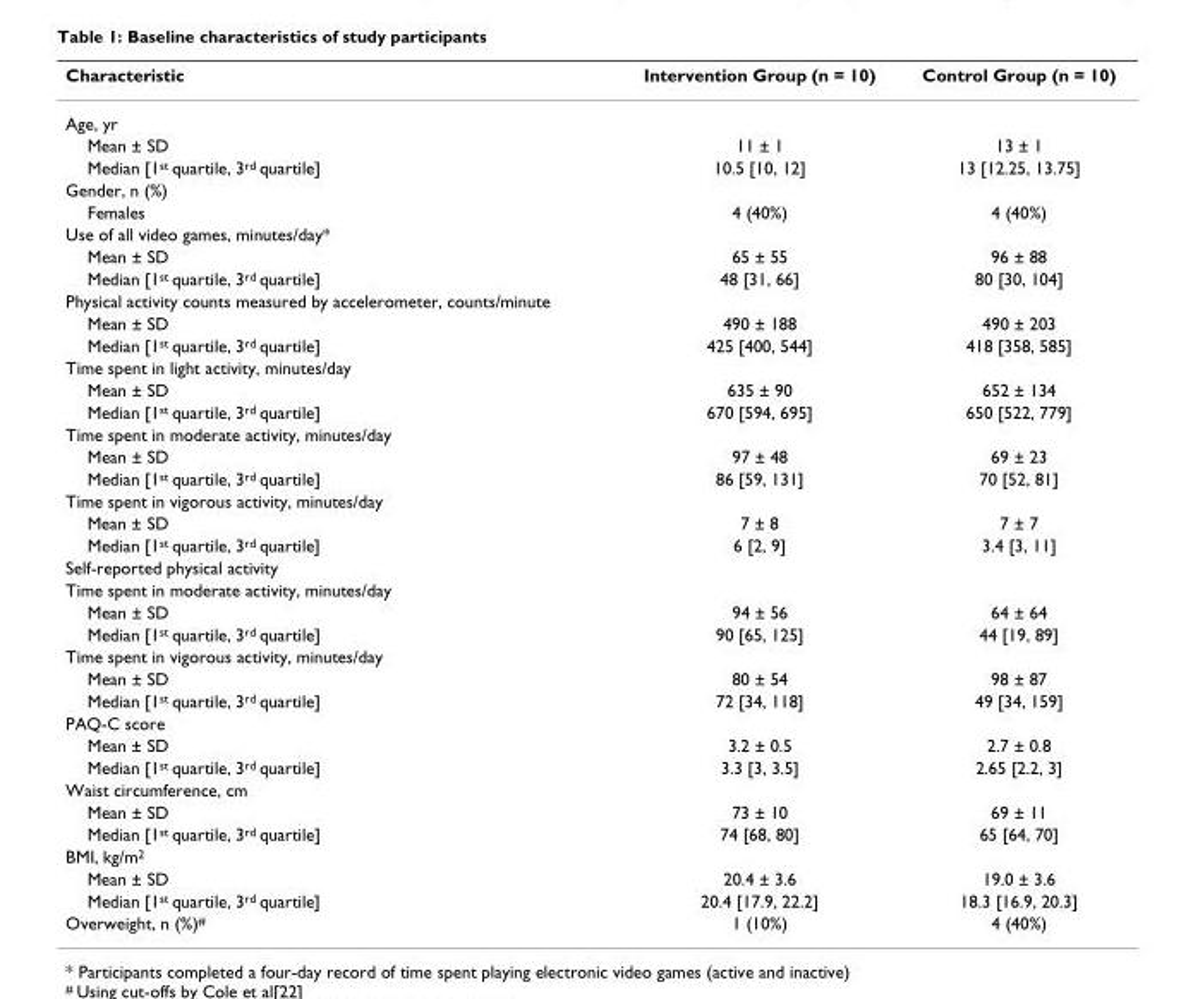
<table><thead><tr><td>Characteristic</td><td>Intervention Group (n = 10)</td><td>Control Group (n = 10)</td></tr></thead><tbody><tr><td colspan="3">Age, yr</td></tr><tr><td>Mean ± SD</td><td>11 ± 1</td><td>13 ± 1</td></tr><tr><td>Median [1<sup>st</sup> quartile, 3<sup>rd</sup> quartile]</td><td>10.5 [10, 12]</td><td>13 [12.25, 13.75]</td></tr><tr><td colspan="3">Gender, n (%)</td></tr><tr><td>Females</td><td>4 (40%)</td><td>4 (40%)</td></tr><tr><td colspan="3">Use of all video games, minutes/day*</td></tr><tr><td>Mean ± SD</td><td>65 ± 55</td><td>96 ± 88</td></tr><tr><td>Median [1<sup>st</sup> quartile, 3<sup>rd</sup> quartile]</td><td>48 [31, 66]</td><td>80 [30, 104]</td></tr><tr><td colspan="3">Physical activity counts measured by accelerometer, counts/minute</td></tr><tr><td>Mean ± SD</td><td>490 ± 188</td><td>490 ± 203</td></tr><tr><td>Median [1<sup>st</sup> quartile, 3<sup>rd</sup> quartile]</td><td>425 [400, 544]</td><td>418 [358, 585]</td></tr><tr><td colspan="3">Time spent in light activity, minutes/day</td></tr><tr><td>Mean ± SD</td><td>635 ± 90</td><td>652 ± 134</td></tr><tr><td>Median [1<sup>st</sup> quartile, 3<sup>rd</sup> quartile]</td><td>670 [594, 695]</td><td>650 [522, 779]</td></tr><tr><td colspan="3">Time spent in moderate activity, minutes/day</td></tr><tr><td>Mean ± SD</td><td>97 ± 48</td><td>69 ± 23</td></tr><tr><td>Median [1<sup>st</sup> quartile, 3<sup>rd</sup> quartile]</td><td>86 [59, 131]</td><td>70 [52, 81]</td></tr><tr><td colspan="3">Time spent in vigorous activity, minutes/day</td></tr><tr><td>Mean ± SD</td><td>7 ± 8</td><td>7 ± 7</td></tr><tr><td>Median [1<sup>st</sup> quartile, 3<sup>rd</sup> quartile]</td><td>6 [2, 9]</td><td>3.4 [3, 11]</td></tr><tr><td colspan="3">Self-reported physical activity</td></tr><tr><td colspan="3">Time spent in moderate activity, minutes/day</td></tr><tr><td>Mean ± SD</td><td>94 ± 56</td><td>64 ± 64</td></tr><tr><td>Median [1<sup>st</sup> quartile, 3<sup>rd</sup> quartile]</td><td>90 [65, 125]</td><td>44 [19, 89]</td></tr><tr><td colspan="3">Time spent in vigorous activity, minutes/day</td></tr><tr><td>Mean ± SD</td><td>80 ± 54</td><td>98 ± 87</td></tr><tr><td>Median [1<sup>st</sup> quartile, 3<sup>rd</sup> quartile]</td><td>72 [34, 118]</td><td>49 [34, 159]</td></tr><tr><td colspan="3">PAQ-C score</td></tr><tr><td>Mean ± SD</td><td>3.2 ± 0.5</td><td>2.7 ± 0.8</td></tr><tr><td>Median [1<sup>st</sup> quartile, 3<sup>rd</sup> quartile]</td><td>3.3 [3, 3.5]</td><td>2.65 [2.2, 3]</td></tr><tr><td colspan="3">Waist circumference, cm</td></tr><tr><td>Mean ± SD</td><td>73 ± 10</td><td>69 ± 11</td></tr><tr><td>Median [1<sup>st</sup> quartile, 3<sup>rd</sup> quartile]</td><td>74 [68, 80]</td><td>65 [64, 70]</td></tr><tr><td colspan="3">BMI, kg/m<sup>2</sup></td></tr><tr><td>Mean ± SD</td><td>20.4 ± 3.6</td><td>19.0 ± 3.6</td></tr><tr><td>Median [1<sup>st</sup> quartile, 3<sup>rd</sup> quartile]</td><td>20.4 [17.9, 22.2]</td><td>18.3 [16.9, 20.3]</td></tr><tr><td>Overweight, n (%)<sup>#</sup></td><td>1 (10%)</td><td>4 (40%)</td></tr></tbody></table>